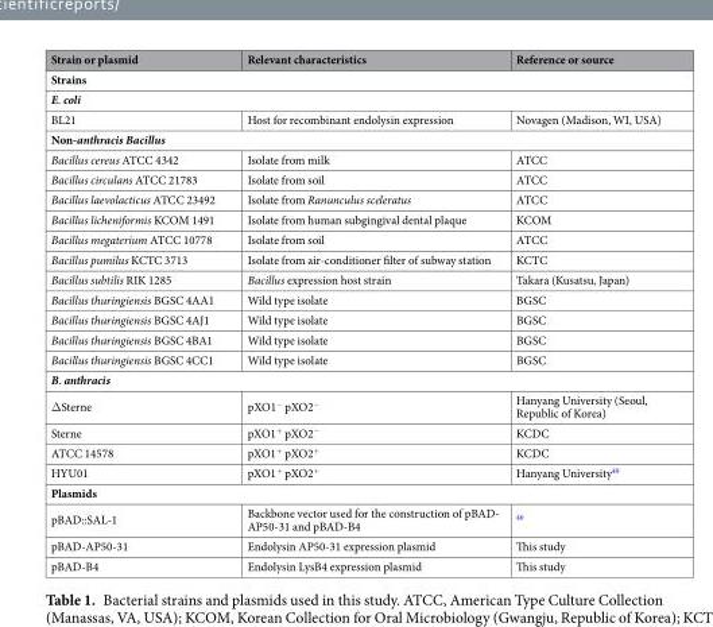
<table><thead><tr><td>Strain or plasmid</td><td>Relevant characteristics</td><td>Reference or source</td></tr></thead><tbody><tr><td colspan="3">Strains</td></tr><tr><td colspan="3">E. coli</td></tr><tr><td>BL21</td><td>Host for recombinant endolysin expression</td><td>Novagen (Madison, WI, USA)</td></tr><tr><td colspan="3">Non-anthracis Bacillus</td></tr><tr><td>Bacillus cereus ATCC 4342</td><td>Isolate from milk</td><td>ATCC</td></tr><tr><td>Bacillus circulans ATCC 21783</td><td>Isolate from soil</td><td>ATCC</td></tr><tr><td>Bacillus laevolacticus ATCC 23492</td><td>Isolate from Ranunculus sceleratus</td><td>ATCC</td></tr><tr><td>Bacillus licheniformis KCOM 1491</td><td>Isolate from human subgingival dental plaque</td><td>KCOM</td></tr><tr><td>Bacillus megaterium ATCC 10778</td><td>Isolate from soil</td><td>ATCC</td></tr><tr><td>Bacillus pumilus KCTC 3713</td><td>Isolate from air-conditioner filter of subway station</td><td>KCTC</td></tr><tr><td>Bacillus subtilis RIK 1285</td><td>Bacillus expression host strain</td><td>Takara (Kusatsu, Japan)</td></tr><tr><td>Bacillus thuringiensis BGSC 4AA1</td><td>Wild type isolate</td><td>BGSC</td></tr><tr><td>Bacillus thuringiensis BGSC 4AJ1</td><td>Wild type isolate</td><td>BGSC</td></tr><tr><td>Bacillus thuringiensis BGSC 4BA1</td><td>Wild type isolate</td><td>BGSC</td></tr><tr><td>Bacillus thuringiensis BGSC 4CC1</td><td>Wild type isolate</td><td>BGSC</td></tr><tr><td colspan="3">B. anthracis</td></tr><tr><td>ΔSterne</td><td>pXO1<sup>−</sup> pXO2<sup>−</sup></td><td>Hanyang University (Seoul, Republic of Korea)</td></tr><tr><td>Sterne</td><td>pXO1<sup>+</sup> pXO2<sup>−</sup></td><td>KCDC</td></tr><tr><td>ATCC 14578</td><td>pXO1<sup>+</sup> pXO2<sup>+</sup></td><td>KCDC</td></tr><tr><td>HYU01</td><td>pXO1<sup>+</sup> pXO2<sup>+</sup></td><td>Hanyang University<sup>49</sup></td></tr><tr><td colspan="3">Plasmids</td></tr><tr><td>pBAD::SAL-1</td><td>Backbone vector used for the construction of pBAD- AP50-31 and pBAD-B4</td><td><sup>46</sup></td></tr><tr><td>pBAD-AP50-31</td><td>Endolysin AP50-31 expression plasmid</td><td>This study</td></tr><tr><td>pBAD-B4</td><td>Endolysin LysB4 expression plasmid</td><td>This study</td></tr></tbody></table>